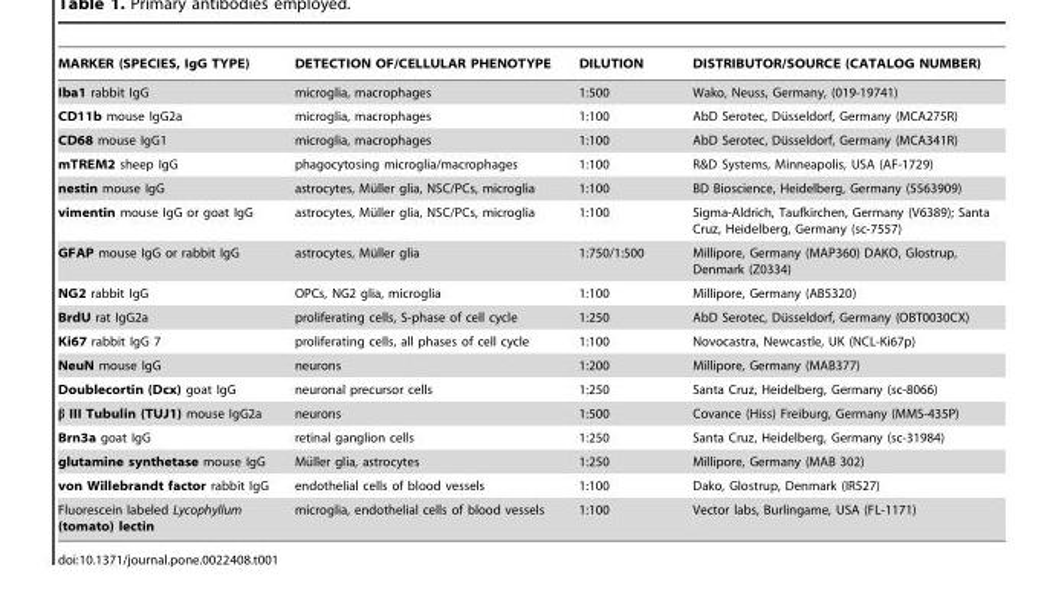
<table><thead><tr><td>MARKER (SPECIES, IgG TYPE)</td><td>DETECTION OF/CELLULAR PHENOTYPE</td><td>DILUTION</td><td>DISTRIBUTOR/SOURCE (CATALOG NUMBER)</td></tr></thead><tbody><tr><td>Iba1 rabbit IgG</td><td>microglia, macrophages</td><td>1:500</td><td>Wako, Neuss, Germany, (019-19741)</td></tr><tr><td>CD11b mouse IgG2a</td><td>microglia, macrophages</td><td>1:100</td><td>AbD Serotec, Du¨sseldorf, Germany (MCA275R)</td></tr><tr><td>CD68 mouse IgG1</td><td>microglia, macrophages</td><td>1:100</td><td>AbD Serotec, Du¨sseldorf, Germany (MCA341R)</td></tr><tr><td>mTREM2 sheep IgG</td><td>phagocytosing microglia/macrophages</td><td>1:100</td><td>R&amp;D Systems, Minneapolis, USA (AF-1729)</td></tr><tr><td>nestin mouse IgG</td><td>astrocytes, Mu¨ller glia, NSC/PCs, microglia</td><td>1:100</td><td>BD Bioscience, Heidelberg, Germany (5563909)</td></tr><tr><td>vimentin mouse IgG or goat IgG</td><td>astrocytes, Mu¨ller glia, NSC/PCs, microglia</td><td>1:100</td><td>Sigma-Aldrich, Taufkirchen, Germany (V6389); Santa Cruz, Heidelberg, Germany (sc-7557)</td></tr><tr><td>GFAP mouse IgG or rabbit IgG</td><td>astrocytes, Mu¨ller glia</td><td>1:750/1:500</td><td>Millipore, Germany (MAP360) DAKO, Glostrup, Denmark (Z0334)</td></tr><tr><td>NG2 rabbit IgG</td><td>OPCs, NG2 glia, microglia</td><td>1:100</td><td>Millipore, Germany (AB5320)</td></tr><tr><td>BrdU rat IgG2a</td><td>proliferating cells, S-phase of cell cycle</td><td>1:250</td><td>AbD Serotec, Du¨sseldorf, Germany (OBT0030CX)</td></tr><tr><td>Ki67 rabbit IgG 7</td><td>proliferating cells, all phases of cell cycle</td><td>1:100</td><td>Novocastra, Newcastle, UK (NCL-Ki67p)</td></tr><tr><td>NeuN mouse IgG</td><td>neurons</td><td>1:200</td><td>Millipore, Germany (MAB377)</td></tr><tr><td>Doublecortin (Dcx) goat IgG</td><td>neuronal precursor cells</td><td>1:250</td><td>Santa Cruz, Heidelberg, Germany (sc-8066)</td></tr><tr><td>β III Tubulin (TUJ1) mouse IgG2a</td><td>neurons</td><td>1:500</td><td>Covance (Hiss) Freiburg, Germany (MMS-435P)</td></tr><tr><td>Brn3a goat IgG</td><td>retinal ganglion cells</td><td>1:250</td><td>Santa Cruz, Heidelberg, Germany (sc-31984)</td></tr><tr><td>glutamine synthetase mouse IgG</td><td>Mu¨ller glia, astrocytes</td><td>1:250</td><td>Millipore, Germany (MAB 302)</td></tr><tr><td>von Willebrandt factor rabbit IgG</td><td>endothelial cells of blood vessels</td><td>1:100</td><td>Dako, Glostrup, Denmark (IR527)</td></tr><tr><td>Fluorescein labeled Lycophyllum (tomato) lectin</td><td>microglia, endothelial cells of blood vessels</td><td>1:100</td><td>Vector labs, Burlingame, USA (FL-1171)</td></tr></tbody></table>